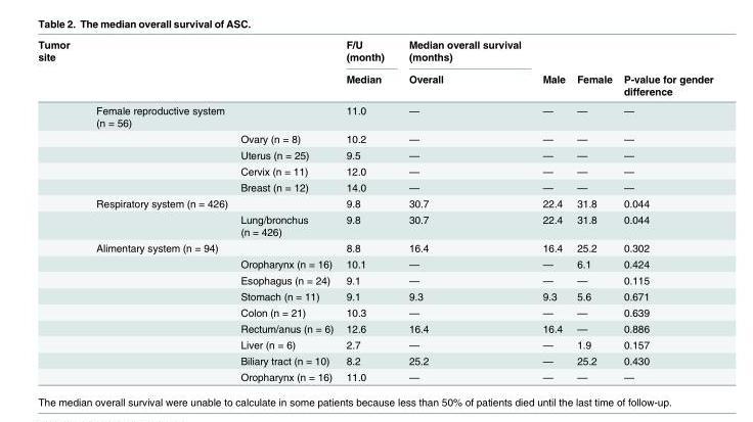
<table><thead><tr><td rowspan="2">Tumor site</td><td rowspan="2"></td><td rowspan="2"></td><td rowspan="2">F/U (month) Median</td><td rowspan="2">Median overall survival (months) Overall</td><td rowspan="2">Male</td><td rowspan="2">Female</td><td rowspan="2">P-value for gender difference</td></tr><tr></tr></thead><tbody><tr><td></td><td>Female reproductive system (n = 56)</td><td></td><td>11.0</td><td>—</td><td>—</td><td>—</td><td>—</td></tr><tr><td></td><td></td><td>Ovary (n = 8)</td><td>10.2</td><td>—</td><td>—</td><td>—</td><td>—</td></tr><tr><td></td><td></td><td>Uterus (n = 25)</td><td>9.5</td><td>—</td><td>—</td><td>—</td><td>—</td></tr><tr><td></td><td></td><td>Cervix (n = 11)</td><td>12.0</td><td>—</td><td>—</td><td>—</td><td>—</td></tr><tr><td></td><td></td><td>Breast (n = 12)</td><td>14.0</td><td>—</td><td>—</td><td>—</td><td>—</td></tr><tr><td></td><td>Respiratory system (n = 426)</td><td></td><td>9.8</td><td>30.7</td><td>22.4</td><td>31.8</td><td>0.044</td></tr><tr><td></td><td></td><td>Lung/bronchus (n = 426)</td><td>9.8</td><td>30.7</td><td>22.4</td><td>31.8</td><td>0.044</td></tr><tr><td></td><td>Alimentary system (n = 94)</td><td></td><td>8.8</td><td>16.4</td><td>16.4</td><td>25.2</td><td>0.302</td></tr><tr><td></td><td></td><td>Oropharynx (n = 16)</td><td>10.1</td><td>—</td><td>—</td><td>6.1</td><td>0.424</td></tr><tr><td></td><td></td><td>Esophagus (n = 24)</td><td>9.1</td><td>—</td><td>—</td><td>—</td><td>0.115</td></tr><tr><td></td><td></td><td>Stomach (n = 11)</td><td>9.1</td><td>9.3</td><td>9.3</td><td>5.6</td><td>0.671</td></tr><tr><td></td><td></td><td>Colon (n = 21)</td><td>10.3</td><td>—</td><td>—</td><td>—</td><td>0.639</td></tr><tr><td></td><td></td><td>Rectum/anus (n = 6)</td><td>12.6</td><td>16.4</td><td>16.4</td><td>—</td><td>0.886</td></tr><tr><td></td><td></td><td>Liver (n = 6)</td><td>2.7</td><td>—</td><td>—</td><td>1.9</td><td>0.157</td></tr><tr><td></td><td></td><td>Biliary tract (n = 10)</td><td>8.2</td><td>25.2</td><td>—</td><td>25.2</td><td>0.430</td></tr><tr><td></td><td></td><td>Oropharynx (n = 16)</td><td>11.0</td><td>—</td><td>—</td><td>—</td><td>—</td></tr></tbody></table>